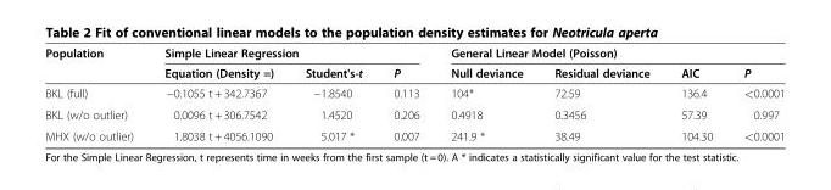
<table><thead><tr><td rowspan="2">Population</td><td colspan="3">Simple Linear Regression</td><td colspan="4">General Linear Model (Poisson)</td></tr><tr><td>Equation (Density =)</td><td>Student&#x27;s-t</td><td>P</td><td>Null deviance</td><td>Residual deviance</td><td>AIC</td><td>P</td></tr></thead><tbody><tr><td>BKL (full)</td><td>−0.1055 t + 342.7367</td><td>−1.8540</td><td>0.113</td><td>104*</td><td>72.59</td><td>136.4</td><td>&lt;0.0001</td></tr><tr><td>BKL (w/o outlier)</td><td>0.0096 t + 306.7542</td><td>1.4520</td><td>0.206</td><td>0.4918</td><td>0.3456</td><td>57.39</td><td>0.997</td></tr><tr><td>MHX (w/o outlier)</td><td>1.8038 t + 4056.1090</td><td>5.017 *</td><td>0.007</td><td>241.9 *</td><td>38.49</td><td>104.30</td><td>&lt;0.0001</td></tr></tbody></table>